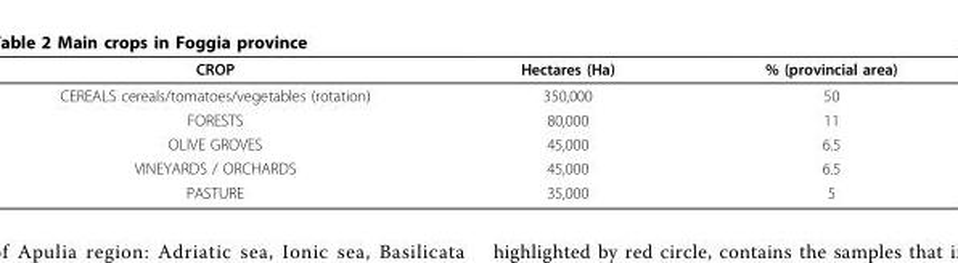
<table><thead><tr><td>CROP</td><td>Hectares (Ha)</td><td>% (provincial area)</td></tr></thead><tbody><tr><td>CEREALS cereals/tomatoes/vegetables (rotation)</td><td>350,000</td><td>50</td></tr><tr><td>FORESTS</td><td>80,000</td><td>11</td></tr><tr><td>OLIVE GROVES</td><td>45,000</td><td>6.5</td></tr><tr><td>VINEYARDS / ORCHARDS</td><td>45,000</td><td>6.5</td></tr><tr><td>PASTURE</td><td>35,000</td><td>5</td></tr></tbody></table>